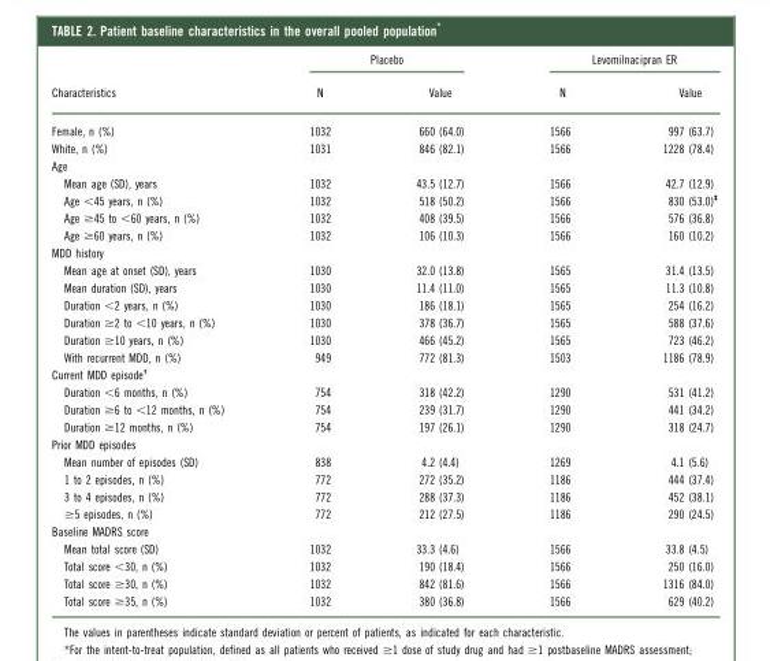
<table><thead><tr><td rowspan="2">Characteristics</td><td colspan="2">Placebo</td><td colspan="2">Levomilnacipran ER</td></tr><tr><td>N</td><td>Value</td><td>N</td><td>Value</td></tr></thead><tbody><tr><td>Female, n (%)</td><td>1032</td><td>660 (64.0)</td><td>1566</td><td>997 (63.7)</td></tr><tr><td>White, n (%)</td><td>1031</td><td>846 (82.1)</td><td>1566</td><td>1228 (78.4)</td></tr><tr><td colspan="5">Age</td></tr><tr><td>Mean age (SD), years</td><td>1032</td><td>43.5 (12.7)</td><td>1566</td><td>42.7 (12.9)</td></tr><tr><td>Age &lt;45 years, n (%)</td><td>1032</td><td>518 (50.2)</td><td>1566</td><td>830 (53.0)- -</td></tr><tr><td>Age ≥45 to &lt;60 years, n (%)</td><td>1032</td><td>408 (39.5)</td><td>1566</td><td>576 (36.8)</td></tr><tr><td>Age ≥60 years, n (%)</td><td>1032</td><td>106 (10.3)</td><td>1566</td><td>160 (10.2)</td></tr><tr><td colspan="5">MDD history</td></tr><tr><td>Mean age at onset (SD), years</td><td>1030</td><td>32.0 (13.8)</td><td>1565</td><td>31.4 (13.5)</td></tr><tr><td>Mean duration (SD), years</td><td>1030</td><td>11.4 (11.0)</td><td>1565</td><td>11.3 (10.8)</td></tr><tr><td>Duration &lt;2 years, n (%)</td><td>1030</td><td>186 (18.1)</td><td>1565</td><td>254 (16.2)</td></tr><tr><td>Duration ≥2 to &lt;10 years, n (%)</td><td>1030</td><td>378 (36.7)</td><td>1565</td><td>588 (37.6)</td></tr><tr><td>Duration ≥10 years, n (%)</td><td>1030</td><td>466 (45.2)</td><td>1565</td><td>723 (46.2)</td></tr><tr><td>With recurrent MDD, n (%)</td><td>949</td><td>772 (81.3)</td><td>1503</td><td>1186 (78.9)</td></tr><tr><td colspan="5">Current MDD episode-</td></tr><tr><td>Duration &lt;6 months, n (%)</td><td>754</td><td>318 (42.2)</td><td>1290</td><td>531 (41.2)</td></tr><tr><td>Duration ≥6 to &lt;12 months, n (%)</td><td>754</td><td>239 (31.7)</td><td>1290</td><td>441 (34.2)</td></tr><tr><td>Duration ≥12 months, n (%)</td><td>754</td><td>197 (26.1)</td><td>1290</td><td>318 (24.7)</td></tr><tr><td colspan="5">Prior MDD episodes</td></tr><tr><td>Mean number of episodes (SD)</td><td>838</td><td>4.2 (4.4)</td><td>1269</td><td>4.1 (5.6)</td></tr><tr><td>1 to 2 episodes, n (%)</td><td>772</td><td>272 (35.2)</td><td>1186</td><td>444 (37.4)</td></tr><tr><td>3 to 4 episodes, n (%)</td><td>772</td><td>288 (37.3)</td><td>1186</td><td>452 (38.1)</td></tr><tr><td>≥5 episodes, n (%)</td><td>772</td><td>212 (27.5)</td><td>1186</td><td>290 (24.5)</td></tr><tr><td colspan="5">Baseline MADRS score</td></tr><tr><td>Mean total score (SD)</td><td>1032</td><td>33.3 (4.6)</td><td>1566</td><td>33.8 (4.5)</td></tr><tr><td>Total score &lt;30, n (%)</td><td>1032</td><td>190 (18.4)</td><td>1566</td><td>250 (16.0)</td></tr><tr><td>Total score ≥30, n (%)</td><td>1032</td><td>842 (81.6)</td><td>1566</td><td>1316 (84.0)</td></tr><tr><td>Total score ≥35, n (%)</td><td>1032</td><td>380 (36.8)</td><td>1566</td><td>629 (40.2)</td></tr></tbody></table>